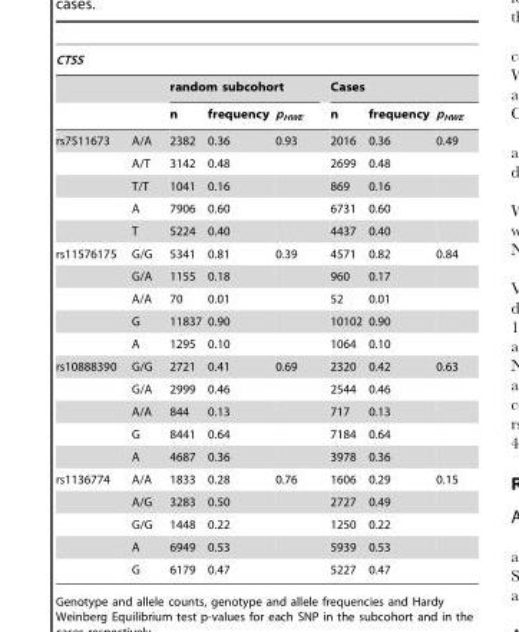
<table><thead><tr><td colspan="8">CTSS</td></tr><tr><td rowspan="2"></td><td rowspan="2"></td><td colspan="3">random subcohort</td><td colspan="3">Cases</td></tr><tr><td>n</td><td>frequency</td><td>p<sub>HWE</sub></td><td>n</td><td>frequency</td><td>p<sub>HWE</sub></td></tr></thead><tbody><tr><td rowspan="5">rs7511673</td><td>A/A</td><td>2382</td><td>0.36</td><td>0.93</td><td>2016</td><td>0.36</td><td>0.49</td></tr><tr><td>A/T</td><td>3142</td><td>0.48</td><td></td><td>2699</td><td>0.48</td><td></td></tr><tr><td>T/T</td><td>1041</td><td>0.16</td><td></td><td>869</td><td>0.16</td><td></td></tr><tr><td>A</td><td>7906</td><td>0.60</td><td></td><td>6731</td><td>0.60</td><td></td></tr><tr><td>T</td><td>5224</td><td>0.40</td><td></td><td>4437</td><td>0.40</td><td></td></tr><tr><td rowspan="5">rs11576175</td><td>G/G</td><td>5341</td><td>0.81</td><td>0.39</td><td>4571</td><td>0.82</td><td>0.84</td></tr><tr><td>G/A</td><td>1155</td><td>0.18</td><td></td><td>960</td><td>0.17</td><td></td></tr><tr><td>A/A</td><td>70</td><td>0.01</td><td></td><td>52</td><td>0.01</td><td></td></tr><tr><td>G</td><td>11837</td><td>0.90</td><td></td><td>10102</td><td>0.90</td><td></td></tr><tr><td>A</td><td>1295</td><td>0.10</td><td></td><td>1064</td><td>0.10</td><td></td></tr><tr><td rowspan="5">rs10888390</td><td>G/G</td><td>2721</td><td>0.41</td><td>0.69</td><td>2320</td><td>0.42</td><td>0.63</td></tr><tr><td>G/A</td><td>2999</td><td>0.46</td><td></td><td>2544</td><td>0.46</td><td></td></tr><tr><td>A/A</td><td>844</td><td>0.13</td><td></td><td>717</td><td>0.13</td><td></td></tr><tr><td>G</td><td>8441</td><td>0.64</td><td></td><td>7184</td><td>0.64</td><td></td></tr><tr><td>A</td><td>4687</td><td>0.36</td><td></td><td>3978</td><td>0.36</td><td></td></tr><tr><td rowspan="5">rs1136774</td><td>A/A</td><td>1833</td><td>0.28</td><td>0.76</td><td>1606</td><td>0.29</td><td>0.15</td></tr><tr><td>A/G</td><td>3283</td><td>0.50</td><td></td><td>2727</td><td>0.49</td><td></td></tr><tr><td>G/G</td><td>1448</td><td>0.22</td><td></td><td>1250</td><td>0.22</td><td></td></tr><tr><td>A</td><td>6949</td><td>0.53</td><td></td><td>5939</td><td>0.53</td><td></td></tr><tr><td>G</td><td>6179</td><td>0.47</td><td></td><td>5227</td><td>0.47</td><td></td></tr></tbody></table>